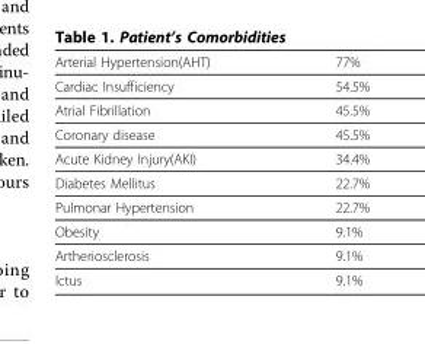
<table><tbody><tr><td>Arterial Hypertension(AHT)</td><td>77%</td></tr><tr><td>Cardiac Insufficiency</td><td>54.5%</td></tr><tr><td>Atrial Fibrillation</td><td>45.5%</td></tr><tr><td>Coronary disease</td><td>45.5%</td></tr><tr><td>Acute Kidney Injury(AKI)</td><td>34.4%</td></tr><tr><td>Diabetes Mellitus</td><td>22.7%</td></tr><tr><td>Pulmonar Hypertension</td><td>22.7%</td></tr><tr><td>Obesity</td><td>9.1%</td></tr><tr><td>Artheriosclerosis</td><td>9.1%</td></tr><tr><td>Ictus</td><td>9.1%</td></tr></tbody></table>